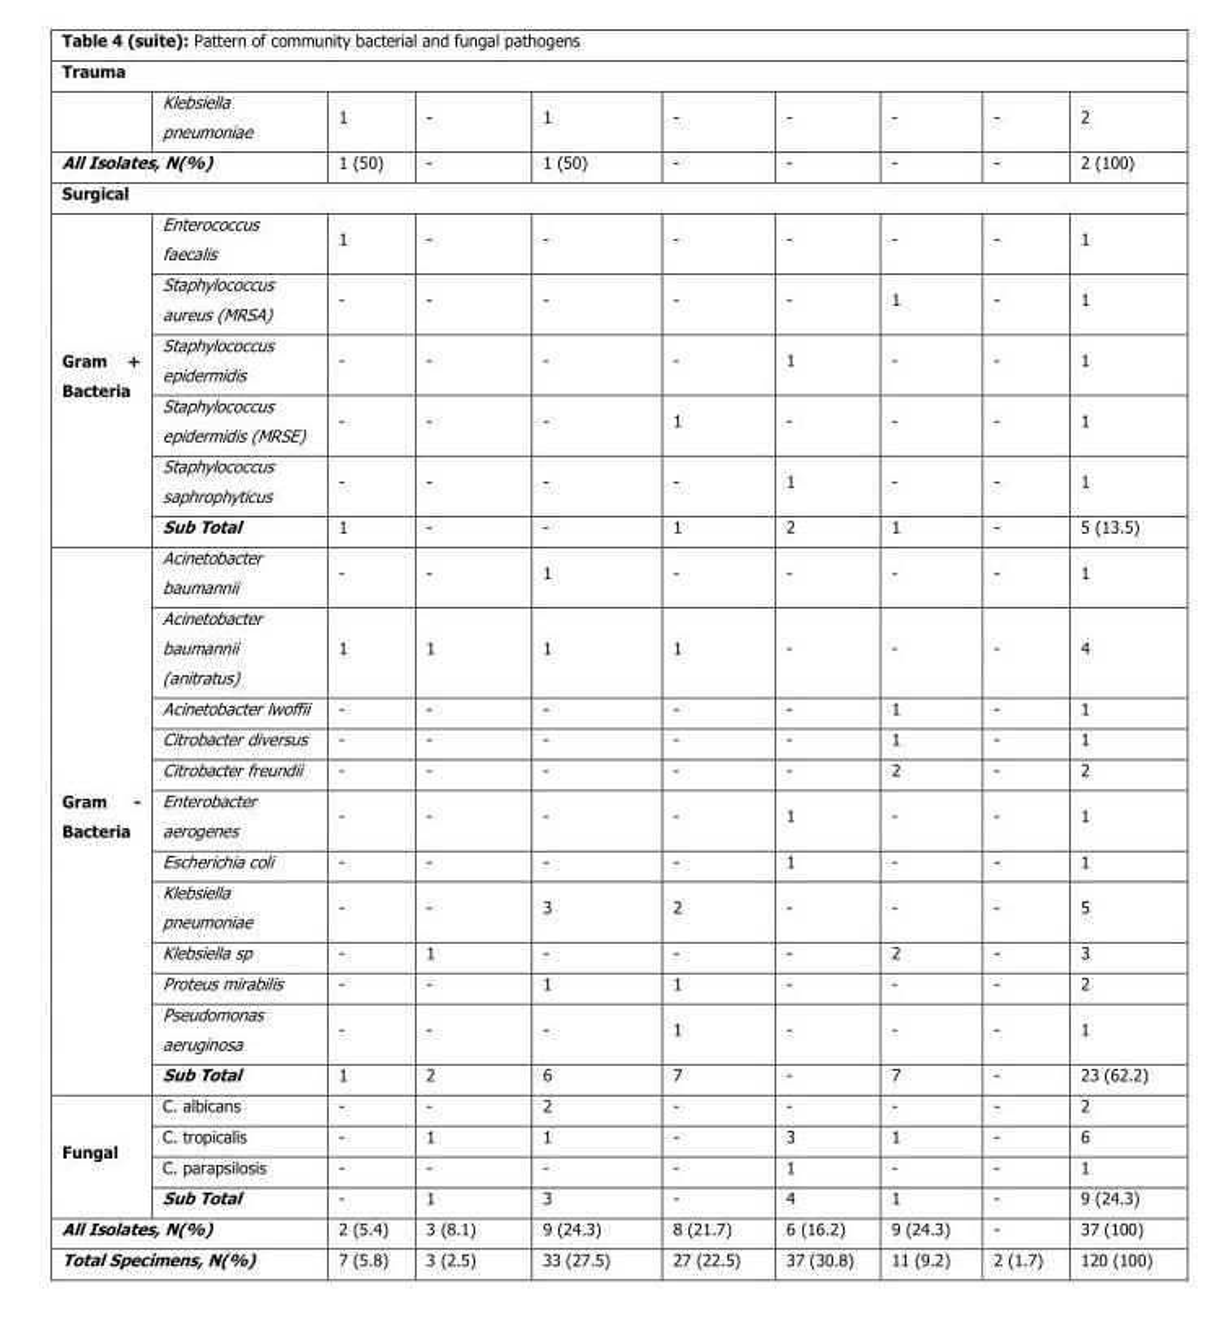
<table><thead><tr><td colspan="10">Trauma</td></tr><tr><td></td><td>Klebsiella pneumoniae</td><td>1</td><td>-</td><td>1</td><td>-</td><td>-</td><td>-</td><td>-</td><td>2</td></tr></thead><tbody><tr><td colspan="2">All Isolates, N(%)</td><td>1 (50)</td><td>-</td><td>1 (50)</td><td>-</td><td>-</td><td>-</td><td>-</td><td>2 (100)</td></tr><tr><td colspan="10">Surgical</td></tr><tr><td rowspan="6">Gram + Bacteria</td><td>Enterococcus faecalis</td><td>1</td><td>-</td><td>-</td><td>-</td><td>-</td><td>-</td><td>-</td><td>1</td></tr><tr><td>Staphylococcus aureus (MRSA)</td><td>-</td><td>-</td><td>-</td><td>-</td><td>-</td><td>1</td><td>-</td><td>1</td></tr><tr><td>Staphylococcus epidermidis</td><td>-</td><td>-</td><td>-</td><td>-</td><td>1</td><td>-</td><td>-</td><td>1</td></tr><tr><td>Staphylococcus epidermidis (MRSE)</td><td>-</td><td>-</td><td>-</td><td>1</td><td>-</td><td>-</td><td>-</td><td>1</td></tr><tr><td>Staphylococcus saphrophyticus</td><td>-</td><td>-</td><td>-</td><td>-</td><td>1</td><td>-</td><td>-</td><td>1</td></tr><tr><td>Sub Total</td><td>1</td><td>-</td><td>-</td><td>1</td><td>2</td><td>1</td><td>-</td><td>5 (13.5)</td></tr><tr><td rowspan="12">Gram - Bacteria</td><td>Acinetobacter baumannii</td><td>-</td><td>-</td><td>1</td><td>-</td><td>-</td><td>-</td><td>-</td><td>1</td></tr><tr><td>Acinetobacter baumannii (anitratus)</td><td>1</td><td>1</td><td>1</td><td>1</td><td>-</td><td>-</td><td>-</td><td>4</td></tr><tr><td>Acinetobacter lwoffii</td><td>-</td><td>-</td><td>-</td><td>-</td><td>-</td><td>1</td><td>-</td><td>1</td></tr><tr><td>Citrobacter diversus</td><td>-</td><td>-</td><td>-</td><td>-</td><td>-</td><td>1</td><td>-</td><td>1</td></tr><tr><td>Citrobacter freundii</td><td>-</td><td>-</td><td>-</td><td>-</td><td>-</td><td>2</td><td>-</td><td>2</td></tr><tr><td>Enterobacter aerogenes</td><td>-</td><td>-</td><td>-</td><td>-</td><td>1</td><td>-</td><td>-</td><td>1</td></tr><tr><td>Escherichia coli</td><td>-</td><td>-</td><td>-</td><td>-</td><td>1</td><td>-</td><td>-</td><td>1</td></tr><tr><td>Klebsiella pneumoniae</td><td>-</td><td>-</td><td>3</td><td>2</td><td>-</td><td>-</td><td>-</td><td>5</td></tr><tr><td>Klebsiella sp</td><td>-</td><td>1</td><td>-</td><td>-</td><td>-</td><td>2</td><td>-</td><td>3</td></tr><tr><td>Proteus mirabilis</td><td>-</td><td>-</td><td>1</td><td>1</td><td>-</td><td>-</td><td>-</td><td>2</td></tr><tr><td>Pseudomonas aeruginosa</td><td>-</td><td>-</td><td>-</td><td>1</td><td>-</td><td>-</td><td>-</td><td>1</td></tr><tr><td>Sub Total</td><td>1</td><td>2</td><td>6</td><td>7</td><td>-</td><td>7</td><td>-</td><td>23 (62.2)</td></tr><tr><td rowspan="4">Fungal</td><td>C. albicans</td><td>-</td><td>-</td><td>2</td><td>-</td><td>-</td><td>-</td><td>-</td><td>2</td></tr><tr><td>C. tropicalis</td><td>-</td><td>1</td><td>1</td><td>-</td><td>3</td><td>1</td><td>-</td><td>6</td></tr><tr><td>C. parapsilosis</td><td>-</td><td>-</td><td>-</td><td>-</td><td>1</td><td>-</td><td>-</td><td>1</td></tr><tr><td>Sub Total</td><td>-</td><td>1</td><td>3</td><td>-</td><td>4</td><td>1</td><td>-</td><td>9 (24.3)</td></tr><tr><td colspan="2">All Isolates, N(%)</td><td>2 (5.4)</td><td>3 (8.1)</td><td>9 (24.3)</td><td>8 (21.7)</td><td>6 (16.2)</td><td>9 (24.3)</td><td>-</td><td>37 (100)</td></tr><tr><td colspan="2">Total Specimens, N(%)</td><td>7 (5.8)</td><td>3 (2.5)</td><td>33 (27.5)</td><td>27 (22.5)</td><td>37 (30.8)</td><td>11 (9.2)</td><td>2 (1.7)</td><td>120 (100)</td></tr></tbody></table>